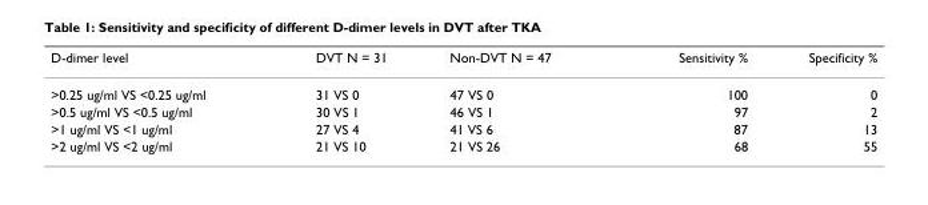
<table><thead><tr><td>D-dimer level</td><td>DVT N = 31</td><td>Non-DVT N = 47</td><td>Sensitivity %</td><td>Specificity %</td></tr></thead><tbody><tr><td>&gt;0.25 ug/ml VS &lt;0.25 ug/ml</td><td>31 VS 0</td><td>47 VS 0</td><td>100</td><td>0</td></tr><tr><td>&gt;0.5 ug/ml VS &lt;0.5 ug/ml</td><td>30 VS 1</td><td>46 VS 1</td><td>97</td><td>2</td></tr><tr><td>&gt;1 ug/ml VS &lt;1 ug/ml</td><td>27 VS 4</td><td>41 VS 6</td><td>87</td><td>13</td></tr><tr><td>&gt;2 ug/ml VS &lt;2 ug/ml</td><td>21 VS 10</td><td>21 VS 26</td><td>68</td><td>55</td></tr></tbody></table>